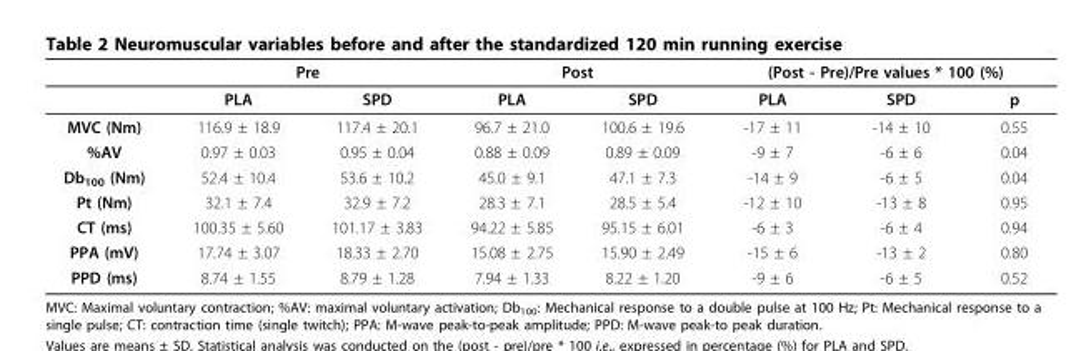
<table><thead><tr><td rowspan="2"></td><td colspan="2">Pre</td><td colspan="2">Post</td><td colspan="3">(Post - Pre)/Pre values * 100 (%)</td></tr><tr><td>PLA</td><td>SPD</td><td>PLA</td><td>SPD</td><td>PLA</td><td>SPD</td><td>p</td></tr></thead><tbody><tr><td>MVC (Nm)</td><td>116.9 ± 18.9</td><td>117.4 ± 20.1</td><td>96.7 ± 21.0</td><td>100.6 ± 19.6</td><td>-17 ± 11</td><td>-14 ± 10</td><td>0.55</td></tr><tr><td>%AV</td><td>0.97 ± 0.03</td><td>0.95 ± 0.04</td><td>0.88 ± 0.09</td><td>0.89 ± 0.09</td><td>-9 ± 7</td><td>-6 ± 6</td><td>0.04</td></tr><tr><td>Db<sub>100</sub> (Nm)</td><td>52.4 ± 10.4</td><td>53.6 ± 10.2</td><td>45.0 ± 9.1</td><td>47.1 ± 7.3</td><td>-14 ± 9</td><td>-6 ± 5</td><td>0.04</td></tr><tr><td>Pt (Nm)</td><td>32.1 ± 7.4</td><td>32.9 ± 7.2</td><td>28.3 ± 7.1</td><td>28.5 ± 5.4</td><td>-12 ± 10</td><td>-13 ± 8</td><td>0.95</td></tr><tr><td>CT (ms)</td><td>100.35 ± 5.60</td><td>101.17 ± 3.83</td><td>94.22 ± 5.85</td><td>95.15 ± 6.01</td><td>-6 ± 3</td><td>-6 ± 4</td><td>0.94</td></tr><tr><td>PPA (mV)</td><td>17.74 ± 3.07</td><td>18.33 ± 2.70</td><td>15.08 ± 2.75</td><td>15.90 ± 2.49</td><td>-15 ± 6</td><td>-13 ± 2</td><td>0.80</td></tr><tr><td>PPD (ms)</td><td>8.74 ± 1.55</td><td>8.79 ± 1.28</td><td>7.94 ± 1.33</td><td>8.22 ± 1.20</td><td>-9 ± 6</td><td>-6 ± 5</td><td>0.52</td></tr></tbody></table>